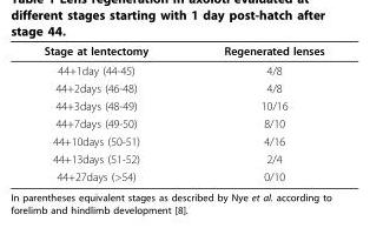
<table><thead><tr><td>Stage at lentectomy</td><td>Regenerated lenses</td></tr></thead><tbody><tr><td>44+1day (44-45)</td><td>4/8</td></tr><tr><td>44+2days (46-48)</td><td>4/8</td></tr><tr><td>44+3days (48-49)</td><td>10/16</td></tr><tr><td>44+7days (49-50)</td><td>8/10</td></tr><tr><td>44+10days (50-51)</td><td>4/16</td></tr><tr><td>44+13days (51-52)</td><td>2/4</td></tr><tr><td>44+27days (&gt;54)</td><td>0/10</td></tr></tbody></table>